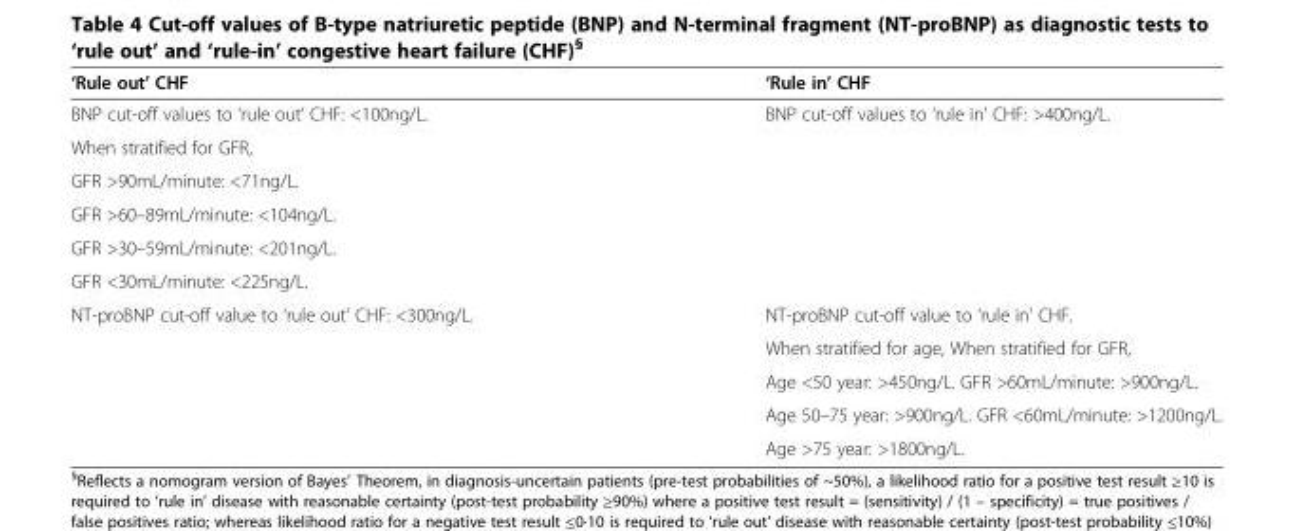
<table><thead><tr><td>‘Rule out’ CHF</td><td>‘Rule in’ CHF</td></tr></thead><tbody><tr><td>BNP cut-off values to ‘rule out’ CHF: &lt;100ng/L.</td><td rowspan="6">BNP cut-off values to ‘rule in’ CHF: &gt;400ng/L.</td></tr><tr><td>When stratified for GFR,</td></tr><tr><td>GFR &gt;90mL/minute: &lt;71ng/L.</td></tr><tr><td>GFR &gt;60–89mL/minute: &lt;104ng/L.</td></tr><tr><td>GFR &gt;30–59mL/minute: &lt;201ng/L.</td></tr><tr><td>GFR &lt;30mL/minute: &lt;225ng/L.</td></tr><tr><td rowspan="5">NT-proBNP cut-off value to ‘rule out’ CHF: &lt;300ng/L.</td><td>NT-proBNP cut-off value to ‘rule in’ CHF.</td></tr><tr><td>When stratified for age, When stratified for GFR,</td></tr><tr><td>Age &lt;50 year: &gt;450ng/L. GFR &gt;60mL/minute: &gt;900ng/L.</td></tr><tr><td>Age 50–75 year: &gt;900ng/L. GFR &lt;60mL/minute: &gt;1200ng/L.</td></tr><tr><td>Age &gt;75 year: &gt;1800ng/L.</td></tr></tbody></table>